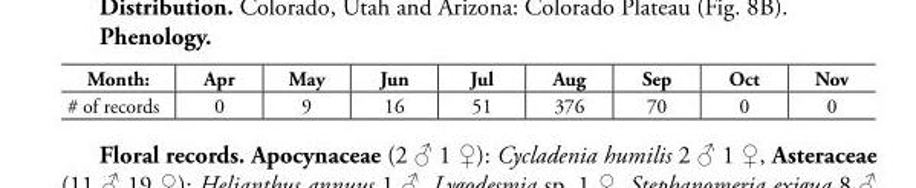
<table><thead><tr><td>Month:</td><td>Apr</td><td>May</td><td>Jun</td><td>Jul</td><td>Aug</td><td>Sep</td><td>Oct</td><td>Nov</td></tr></thead><tbody><tr><td># of records</td><td>0</td><td>9</td><td>16</td><td>51</td><td>376</td><td>70</td><td>0</td><td>0</td></tr></tbody></table>